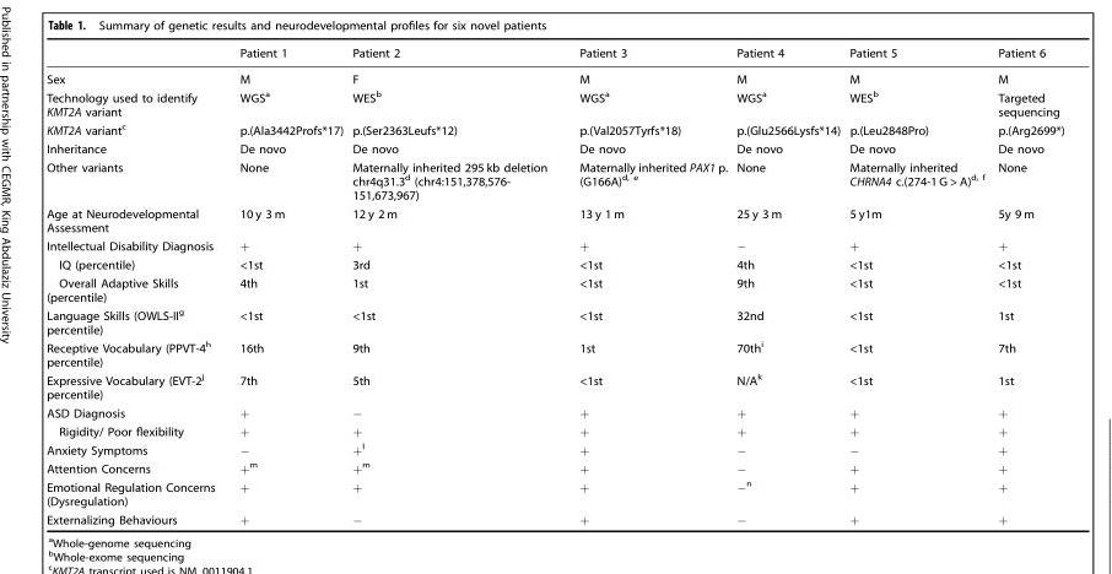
<table><thead><tr><td></td><td>Patient 1</td><td>Patient 2</td><td>Patient 3</td><td>Patient 4</td><td>Patient 5</td><td>Patient 6</td></tr></thead><tbody><tr><td>Sex</td><td>M</td><td>F</td><td>M</td><td>M</td><td>M</td><td>M</td></tr><tr><td>Technology used to identify KMT2A variant</td><td>WGS<sup>a</sup></td><td>WES<sup>b</sup></td><td>WGS<sup>a</sup></td><td>WGS<sup>a</sup></td><td>WES<sup>b</sup></td><td>Targeted sequencing</td></tr><tr><td>KMT2A variant<sup>c</sup></td><td>p.(Ala3442Profs*17)</td><td>p.(Ser2363Leufs*12)</td><td>p.(Val2057Tyrfs*18)</td><td>p.(Glu2566Lysfs*14)</td><td>p.(Leu2848Pro)</td><td>p.(Arg2699*)</td></tr><tr><td>Inheritance</td><td>De novo</td><td>De novo</td><td>De novo</td><td>De novo</td><td>De novo</td><td>De novo</td></tr><tr><td>Other variants</td><td>None</td><td>Maternally inherited 295 kb deletion chr4q31.3<sup>d</sup> (chr4:151,378,576- 151,673,967)</td><td>Maternally inherited PAX1 p. (G166A)<sup>d, e</sup></td><td>None</td><td>Maternally inherited CHRNA4 c.(274-1 G &gt; A)<sup>d, f</sup></td><td>None</td></tr><tr><td>Age at Neurodevelopmental Assessment</td><td>10 y 3 m</td><td>12 y 2 m</td><td>13 y 1 m</td><td>25 y 3 m</td><td>5 y1m</td><td>5y 9 m</td></tr><tr><td>Intellectual Disability Diagnosis</td><td>+</td><td>+</td><td>+</td><td>−</td><td>+</td><td>+</td></tr><tr><td>IQ (percentile)</td><td>&lt;1st</td><td>3rd</td><td>&lt;1st</td><td>4th</td><td>&lt;1st</td><td>&lt;1st</td></tr><tr><td>Overall Adaptive Skills (percentile)</td><td>4th</td><td>1st</td><td>&lt;1st</td><td>9th</td><td>&lt;1st</td><td>&lt;1st</td></tr><tr><td>Language Skills (OWLS-II<sup>g</sup> percentile)</td><td>&lt;1st</td><td>&lt;1st</td><td>&lt;1st</td><td>32nd</td><td>&lt;1st</td><td>1st</td></tr><tr><td>Receptive Vocabulary (PPVT-4<sup>h</sup> percentile)</td><td>16th</td><td>9th</td><td>1st</td><td>70th<sup>i</sup></td><td>&lt;1st</td><td>7th</td></tr><tr><td>Expressive Vocabulary (EVT-2<sup>j</sup> percentile)</td><td>7th</td><td>5th</td><td>&lt;1st</td><td>N/A<sup>k</sup></td><td>&lt;1st</td><td>1st</td></tr><tr><td>ASD Diagnosis</td><td>+</td><td>−</td><td>+</td><td>+</td><td>+</td><td>+</td></tr><tr><td>Rigidity/ Poor flexibility</td><td>+</td><td>+</td><td>+</td><td>+</td><td>+</td><td>+</td></tr><tr><td>Anxiety Symptoms</td><td>−</td><td>+<sup>l</sup></td><td>+</td><td>−</td><td>−</td><td>+</td></tr><tr><td>Attention Concerns</td><td>+<sup>m</sup></td><td>+<sup>m</sup></td><td>+</td><td>−</td><td>+</td><td>+</td></tr><tr><td>Emotional Regulation Concerns (Dysregulation)</td><td>+</td><td>+</td><td>+</td><td>−<sup>n</sup></td><td>+</td><td>+</td></tr><tr><td>Externalizing Behaviours</td><td>+</td><td>−</td><td>+</td><td>−</td><td>+</td><td>+</td></tr></tbody></table>